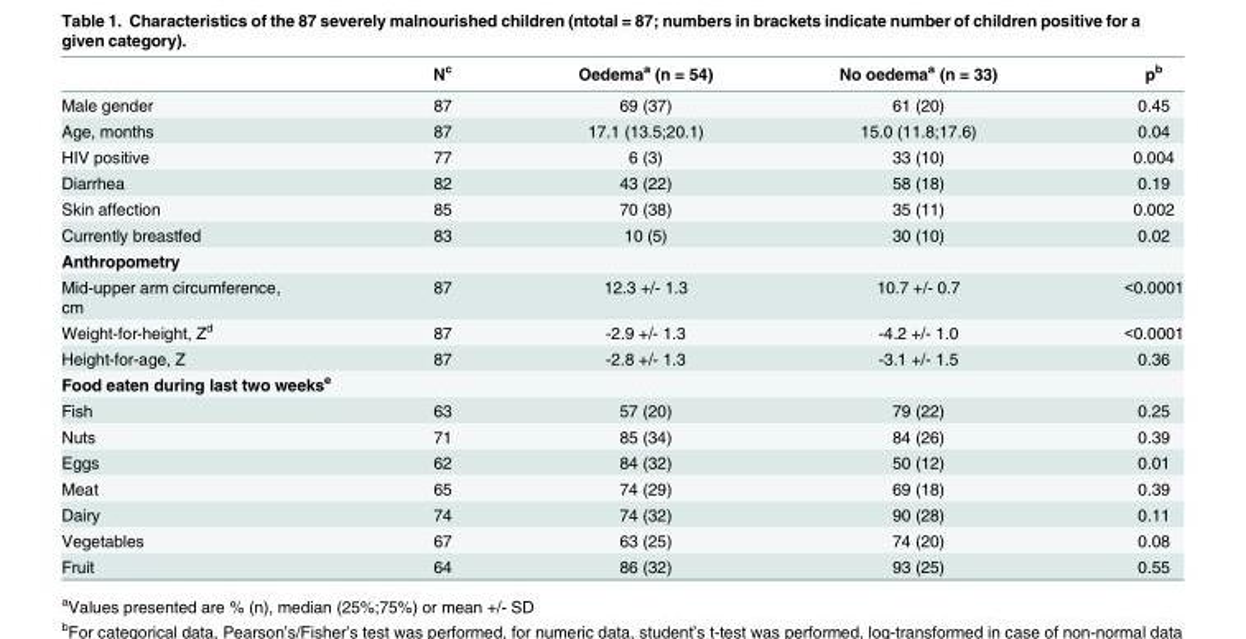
<table><thead><tr><td></td><td>N<sup>c</sup></td><td>Oedema<sup>a</sup> (n = 54)</td><td>No oedema<sup>a</sup> (n = 33)</td><td>p<sup>b</sup></td></tr></thead><tbody><tr><td>Male gender</td><td>87</td><td>69 (37)</td><td>61 (20)</td><td>0.45</td></tr><tr><td>Age, months</td><td>87</td><td>17.1 (13.5;20.1)</td><td>15.0 (11.8;17.6)</td><td>0.04</td></tr><tr><td>HIV positive</td><td>77</td><td>6 (3)</td><td>33 (10)</td><td>0.004</td></tr><tr><td>Diarrhea</td><td>82</td><td>43 (22)</td><td>58 (18)</td><td>0.19</td></tr><tr><td>Skin affection</td><td>85</td><td>70 (38)</td><td>35 (11)</td><td>0.002</td></tr><tr><td>Currently breastfed</td><td>83</td><td>10 (5)</td><td>30 (10)</td><td>0.02</td></tr><tr><td colspan="5">Anthropometry</td></tr><tr><td>Mid-upper arm circumference, cm</td><td>87</td><td>12.3 +/- 1.3</td><td>10.7 +/- 0.7</td><td>&lt;0.0001</td></tr><tr><td>Weight-for-height, Z<sup>d</sup></td><td>87</td><td>-2.9 +/- 1.3</td><td>-4.2 +/- 1.0</td><td>&lt;0.0001</td></tr><tr><td>Height-for-age, Z</td><td>87</td><td>-2.8 +/- 1.3</td><td>-3.1 +/- 1.5</td><td>0.36</td></tr><tr><td colspan="5">Food eaten during last two weeks<sup>e</sup></td></tr><tr><td>Fish</td><td>63</td><td>57 (20)</td><td>79 (22)</td><td>0.25</td></tr><tr><td>Nuts</td><td>71</td><td>85 (34)</td><td>84 (26)</td><td>0.39</td></tr><tr><td>Eggs</td><td>62</td><td>84 (32)</td><td>50 (12)</td><td>0.01</td></tr><tr><td>Meat</td><td>65</td><td>74 (29)</td><td>69 (18)</td><td>0.39</td></tr><tr><td>Dairy</td><td>74</td><td>74 (32)</td><td>90 (28)</td><td>0.11</td></tr><tr><td>Vegetables</td><td>67</td><td>63 (25)</td><td>74 (20)</td><td>0.08</td></tr><tr><td>Fruit</td><td>64</td><td>86 (32)</td><td>93 (25)</td><td>0.55</td></tr></tbody></table>